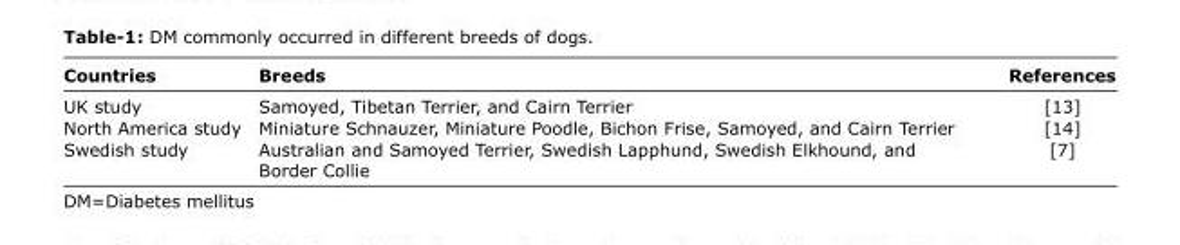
<table><thead><tr><td>Countries</td><td>Breeds</td><td>References</td></tr></thead><tbody><tr><td>UK study</td><td>Samoyed, Tibetan Terrier, and Cairn Terrier</td><td>[13]</td></tr><tr><td>North America study</td><td>Miniature Schnauzer, Miniature Poodle, Bichon Frise, Samoyed, and Cairn Terrier</td><td>[14]</td></tr><tr><td>Swedish study</td><td>Australian and Samoyed Terrier, Swedish Lapphund, Swedish Elkhound, and Border Collie</td><td>[7]</td></tr></tbody></table>